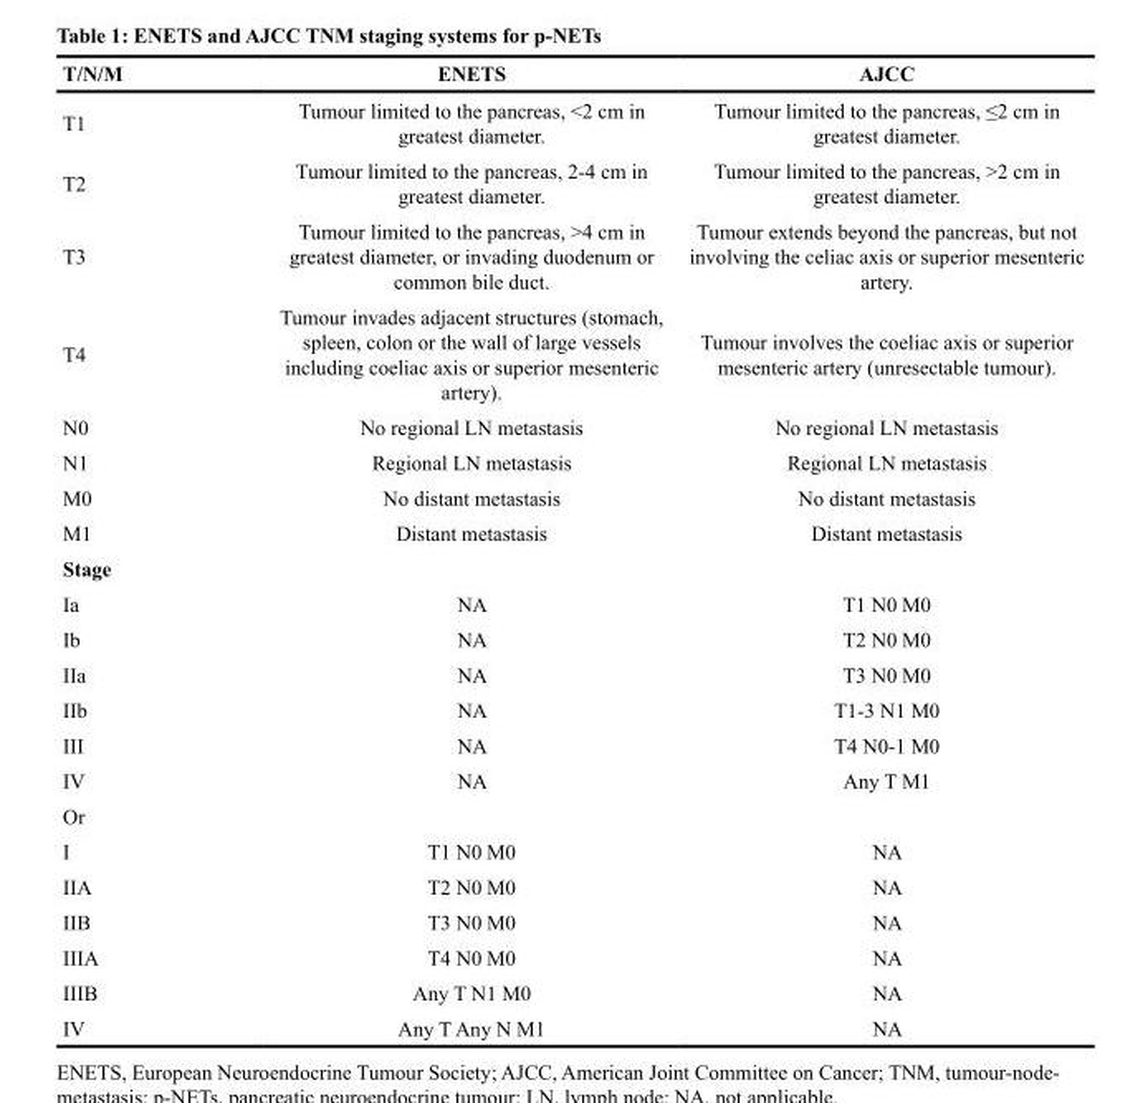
<table><thead><tr><td>T/N/M</td><td>ENETS</td><td>AJCC</td></tr></thead><tbody><tr><td>T1</td><td>Tumour limited to the pancreas, &lt;2 cm in greatest diameter.</td><td>Tumour limited to the pancreas, ≤2 cm in greatest diameter.</td></tr><tr><td>T2</td><td>Tumour limited to the pancreas, 2-4 cm in greatest diameter.</td><td>Tumour limited to the pancreas, &gt;2 cm in greatest diameter.</td></tr><tr><td>T3</td><td>Tumour limited to the pancreas, &gt;4 cm in greatest diameter, or invading duodenum or common bile duct.</td><td>Tumour extends beyond the pancreas, but not involving the celiac axis or superior mesenteric artery.</td></tr><tr><td>T4</td><td>Tumour invades adjacent structures (stomach, spleen, colon or the wall of large vessels including coeliac axis or superior mesenteric artery).</td><td>Tumour involves the coeliac axis or superior mesenteric artery (unresectable tumour).</td></tr><tr><td>N0</td><td>No regional LN metastasis</td><td>No regional LN metastasis</td></tr><tr><td>N1</td><td>Regional LN metastasis</td><td>Regional LN metastasis</td></tr><tr><td>M0</td><td>No distant metastasis</td><td>No distant metastasis</td></tr><tr><td>M1</td><td>Distant metastasis</td><td>Distant metastasis</td></tr><tr><td colspan="3">Stage</td></tr><tr><td>Ia</td><td>NA</td><td>T1 N0 M0</td></tr><tr><td>Ib</td><td>NA</td><td>T2 N0 M0</td></tr><tr><td>IIa</td><td>NA</td><td>T3 N0 M0</td></tr><tr><td>IIb</td><td>NA</td><td>T1-3 N1 M0</td></tr><tr><td>III</td><td>NA</td><td>T4 N0-1 M0</td></tr><tr><td>IV</td><td>NA</td><td>Any T M1</td></tr><tr><td colspan="3">Or</td></tr><tr><td>I</td><td>T1 N0 M0</td><td>NA</td></tr><tr><td>IIA</td><td>T2 N0 M0</td><td>NA</td></tr><tr><td>IIB</td><td>T3 N0 M0</td><td>NA</td></tr><tr><td>IIIA</td><td>T4 N0 M0</td><td>NA</td></tr><tr><td>IIIB</td><td>Any T N1 M0</td><td>NA</td></tr><tr><td>IV</td><td>Any T Any N M1</td><td>NA</td></tr></tbody></table>